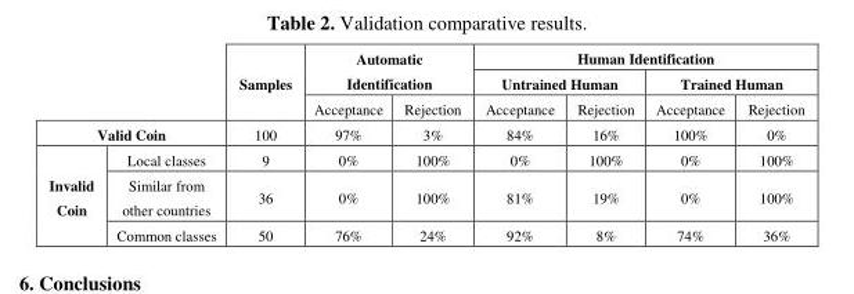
<table><thead><tr><td rowspan="3"></td><td rowspan="3"></td><td rowspan="3">Samples</td><td rowspan="2" colspan="2">Automatic Identification</td><td colspan="4">Human Identification</td></tr><tr><td colspan="2">Untrained Human</td><td colspan="2">Trained Human</td></tr><tr><td>Acceptance</td><td>Rejection</td><td>Acceptance</td><td>Rejection</td><td>Acceptance</td><td>Rejection</td></tr></thead><tbody><tr><td colspan="2">Valid Coin</td><td>100</td><td>97%</td><td>3%</td><td>84%</td><td>16%</td><td>100%</td><td>0%</td></tr><tr><td rowspan="3">Invalid Coin</td><td>Local classes</td><td>9</td><td>0%</td><td>100%</td><td>0%</td><td>100%</td><td>0%</td><td>100%</td></tr><tr><td>Similar from other countries</td><td>36</td><td>0%</td><td>100%</td><td>81%</td><td>19%</td><td>0%</td><td>100%</td></tr><tr><td>Common classes</td><td>50</td><td>76%</td><td>24%</td><td>92%</td><td>8%</td><td>74%</td><td>36%</td></tr></tbody></table>